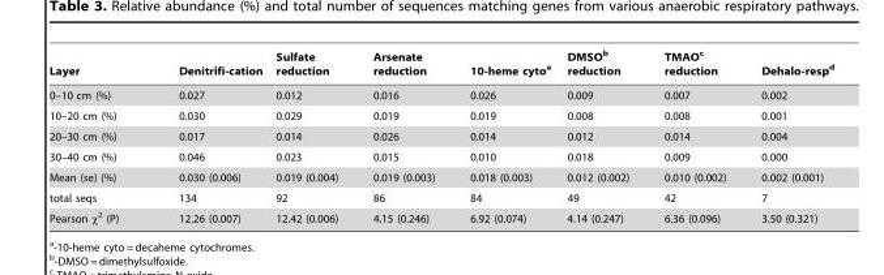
<table><thead><tr><td>Layer</td><td>Denitrifi-cation</td><td>Sulfate reduction</td><td>Arsenate reduction</td><td>10-heme cyto<sup>a</sup></td><td>DMSO<sup>b</sup> reduction</td><td>TMAO<sup>c</sup> reduction</td><td>Dehalo-resp<sup>d</sup></td></tr></thead><tbody><tr><td>0–10 cm (%)</td><td>0.027</td><td>0.012</td><td>0.016</td><td>0.026</td><td>0.009</td><td>0.007</td><td>0.002</td></tr><tr><td>10–20 cm (%)</td><td>0.030</td><td>0.029</td><td>0.019</td><td>0.019</td><td>0.008</td><td>0.008</td><td>0.001</td></tr><tr><td>20–30 cm (%)</td><td>0.017</td><td>0.014</td><td>0.026</td><td>0.014</td><td>0.012</td><td>0.014</td><td>0.004</td></tr><tr><td>30–40 cm (%)</td><td>0.046</td><td>0.023</td><td>0.015</td><td>0.010</td><td>0.018</td><td>0.009</td><td>0.000</td></tr><tr><td>Mean (se) (%)</td><td>0.030 (0.006)</td><td>0.019 (0.004)</td><td>0.019 (0.003)</td><td>0.018 (0.003)</td><td>0.012 (0.002)</td><td>0.010 (0.002)</td><td>0.002 (0.001)</td></tr><tr><td>total seqs</td><td>134</td><td>92</td><td>86</td><td>84</td><td>49</td><td>42</td><td>7</td></tr><tr><td>Pearson χ<sup>2</sup> (P)</td><td>12.26 (0.007)</td><td>12.42 (0.006)</td><td>4.15 (0.246)</td><td>6.92 (0.074)</td><td>4.14 (0.247)</td><td>6.36 (0.096)</td><td>3.50 (0.321)</td></tr></tbody></table>